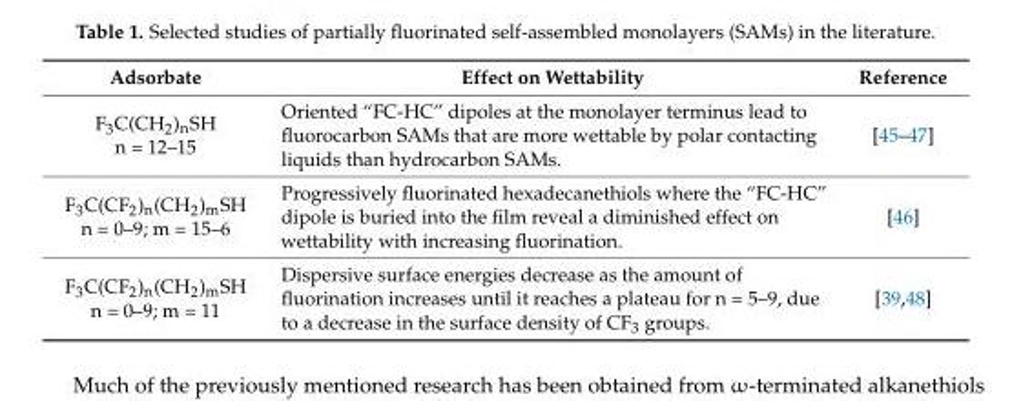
<table><thead><tr><td>Adsorbate</td><td>Effect on Wettability</td><td>Reference</td></tr></thead><tbody><tr><td>F3C(CH2)nSH n = 12–15</td><td>Oriented “FC-HC” dipoles at the monolayer terminus lead to fluorocarbon SAMs that are more wettable by polar contacting liquids than hydrocarbon SAMs.</td><td>[45–47]</td></tr><tr><td>F3C(CF2)n(CH2)mSH n = 0–9; m = 15–6</td><td>Progressively fluorinated hexadecanethiols where the “FC-HC” dipole is buried into the film reveal a diminished effect on wettability with increasing fluorination.</td><td>[46]</td></tr><tr><td>F3C(CF2)n(CH2)mSH n = 0–9; m = 11</td><td>Dispersive surface energies decrease as the amount of fluorination increases until it reaches a plateau for n = 5–9, due to a decrease in the surface density of CF3 groups.</td><td>[39,48]</td></tr></tbody></table>